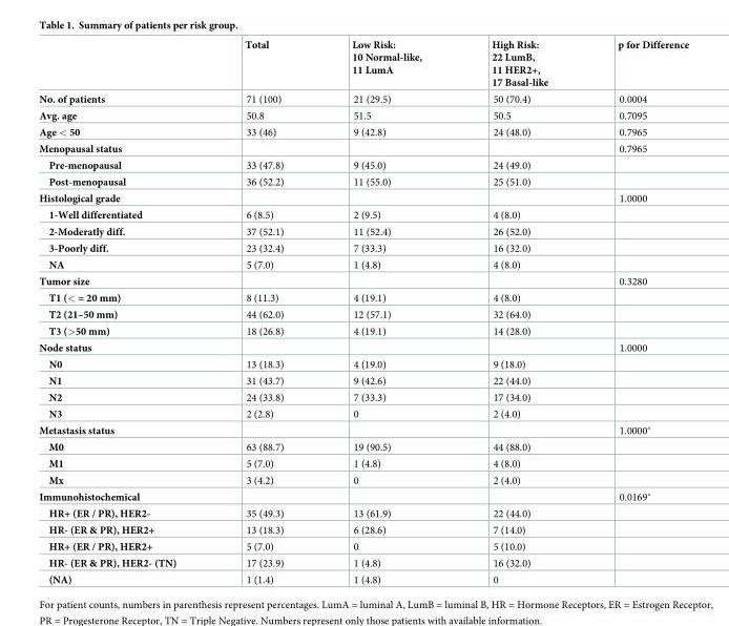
<table><thead><tr><td></td><td>Total</td><td>Low Risk: 10 Normal-like, 11 LumA</td><td>High Risk: 22 LumB, 11 HER2+, 17 Basal-like</td><td>p for Difference</td></tr></thead><tbody><tr><td>No. of patients</td><td>71 (100)</td><td>21 (29.5)</td><td>50 (70.4)</td><td>0.0004</td></tr><tr><td>Avg. age</td><td>50.8</td><td>51.5</td><td>50.5</td><td>0.7095</td></tr><tr><td>Age &lt; 50</td><td>33 (46)</td><td>9 (42.8)</td><td>24 (48.0)</td><td>0.7965</td></tr><tr><td>Menopausal status</td><td></td><td></td><td></td><td>0.7965</td></tr><tr><td>Pre-menopausal</td><td>33 (47.8)</td><td>9 (45.0)</td><td>24 (49.0)</td><td></td></tr><tr><td>Post-menopausal</td><td>36 (52.2)</td><td>11 (55.0)</td><td>25 (51.0)</td><td></td></tr><tr><td>Histological grade</td><td></td><td></td><td></td><td>1.0000</td></tr><tr><td>1-Well differentiated</td><td>6 (8.5)</td><td>2 (9.5)</td><td>4 (8.0)</td><td></td></tr><tr><td>2-Moderatly diff.</td><td>37 (52.1)</td><td>11 (52.4)</td><td>26 (52.0)</td><td></td></tr><tr><td>3-Poorly diff.</td><td>23 (32.4)</td><td>7 (33.3)</td><td>16 (32.0)</td><td></td></tr><tr><td>NA</td><td>5 (7.0)</td><td>1 (4.8)</td><td>4 (8.0)</td><td></td></tr><tr><td>Tumor size</td><td></td><td></td><td></td><td>0.3280</td></tr><tr><td>T1 (&lt; = 20 mm)</td><td>8 (11.3)</td><td>4 (19.1)</td><td>4 (8.0)</td><td></td></tr><tr><td>T2 (21–50 mm)</td><td>44 (62.0)</td><td>12 (57.1)</td><td>32 (64.0)</td><td></td></tr><tr><td>T3 (&gt;50 mm)</td><td>18 (26.8)</td><td>4 (19.1)</td><td>14 (28.0)</td><td></td></tr><tr><td>Node status</td><td></td><td></td><td></td><td>1.0000</td></tr><tr><td>N0</td><td>13 (18.3)</td><td>4 (19.0)</td><td>9 (18.0)</td><td></td></tr><tr><td>N1</td><td>31 (43.7)</td><td>9 (42.6)</td><td>22 (44.0)</td><td></td></tr><tr><td>N2</td><td>24 (33.8)</td><td>7 (33.3)</td><td>17 (34.0)</td><td></td></tr><tr><td>N3</td><td>2 (2.8)</td><td>0</td><td>2 (4.0)</td><td></td></tr><tr><td>Metastasis status</td><td></td><td></td><td></td><td>1.0000*</td></tr><tr><td>M0</td><td>63 (88.7)</td><td>19 (90.5)</td><td>44 (88.0)</td><td></td></tr><tr><td>M1</td><td>5 (7.0)</td><td>1 (4.8)</td><td>4 (8.0)</td><td></td></tr><tr><td>Mx</td><td>3 (4.2)</td><td>0</td><td>2 (4.0)</td><td></td></tr><tr><td>Immunohistochemical</td><td></td><td></td><td></td><td>0.0169*</td></tr><tr><td>HR+ (ER / PR), HER2-</td><td>35 (49.3)</td><td>13 (61.9)</td><td>22 (44.0)</td><td></td></tr><tr><td>HR- (ER &amp; PR), HER2+</td><td>13 (18.3)</td><td>6 (28.6)</td><td>7 (14.0)</td><td></td></tr><tr><td>HR+ (ER / PR), HER2+</td><td>5 (7.0)</td><td>0</td><td>5 (10.0)</td><td></td></tr><tr><td>HR- (ER &amp; PR), HER2- (TN)</td><td>17 (23.9)</td><td>1 (4.8)</td><td>16 (32.0)</td><td></td></tr><tr><td>(NA)</td><td>1 (1.4)</td><td>1 (4.8)</td><td>0</td><td></td></tr></tbody></table>